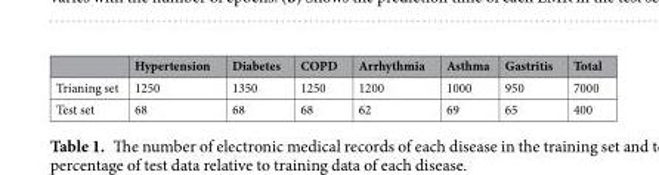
<table><thead><tr><td></td><td>Hypertension</td><td>Diabetes</td><td>COPD</td><td>Arrhythmia</td><td>Asthma</td><td>Gastritis</td><td>Total</td></tr></thead><tbody><tr><td>Trianing set</td><td>1250</td><td>1350</td><td>1250</td><td>1200</td><td>1000</td><td>950</td><td>7000</td></tr><tr><td>Test set</td><td>68</td><td>68</td><td>68</td><td>62</td><td>69</td><td>65</td><td>400</td></tr></tbody></table>